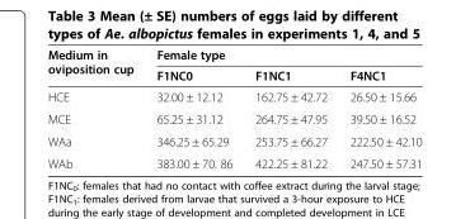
<table><thead><tr><td rowspan="2">Medium in oviposition cup</td><td colspan="3">Female type</td></tr><tr><td>F1NC0</td><td>F1NC1</td><td>F4NC1</td></tr></thead><tbody><tr><td>HCE</td><td>32.00 ± 12.12</td><td>162.75 ± 42.72</td><td>26.50 ± 15.66</td></tr><tr><td>MCE</td><td>65.25 ± 31.12</td><td>264.75 ± 47.95</td><td>39.50 ± 16.52</td></tr><tr><td>WAa</td><td>346.25 ± 65.29</td><td>253.75 ± 66.27</td><td>222.50 ± 42.10</td></tr><tr><td>WAb</td><td>383.00 ± 70. 86</td><td>422.25 ± 81.22</td><td>247.50 ± 57.31</td></tr></tbody></table>